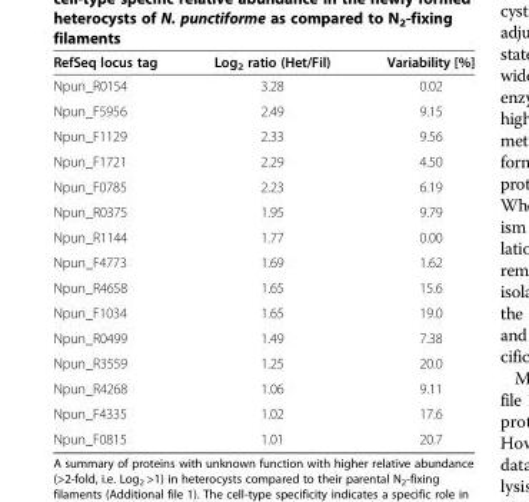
<table><thead><tr><td>RefSeq locus tag</td><td>Log<sub>2</sub> ratio (Het/Fil)</td><td>Variability [%]</td></tr></thead><tbody><tr><td>Npun_R0154</td><td>3.28</td><td>0.02</td></tr><tr><td>Npun_F5956</td><td>2.49</td><td>9.15</td></tr><tr><td>Npun_F1129</td><td>2.33</td><td>9.56</td></tr><tr><td>Npun_F1721</td><td>2.29</td><td>4.50</td></tr><tr><td>Npun_F0785</td><td>2.23</td><td>6.19</td></tr><tr><td>Npun_R0375</td><td>1.95</td><td>9.79</td></tr><tr><td>Npun_R1144</td><td>1.77</td><td>0.00</td></tr><tr><td>Npun_F4773</td><td>1.69</td><td>1.62</td></tr><tr><td>Npun_R4658</td><td>1.65</td><td>15.6</td></tr><tr><td>Npun_F1034</td><td>1.65</td><td>19.0</td></tr><tr><td>Npun_R0499</td><td>1.49</td><td>7.38</td></tr><tr><td>Npun_R3559</td><td>1.25</td><td>20.0</td></tr><tr><td>Npun_R4268</td><td>1.06</td><td>9.11</td></tr><tr><td>Npun_F4335</td><td>1.02</td><td>17.6</td></tr><tr><td>Npun_F0815</td><td>1.01</td><td>20.7</td></tr></tbody></table>